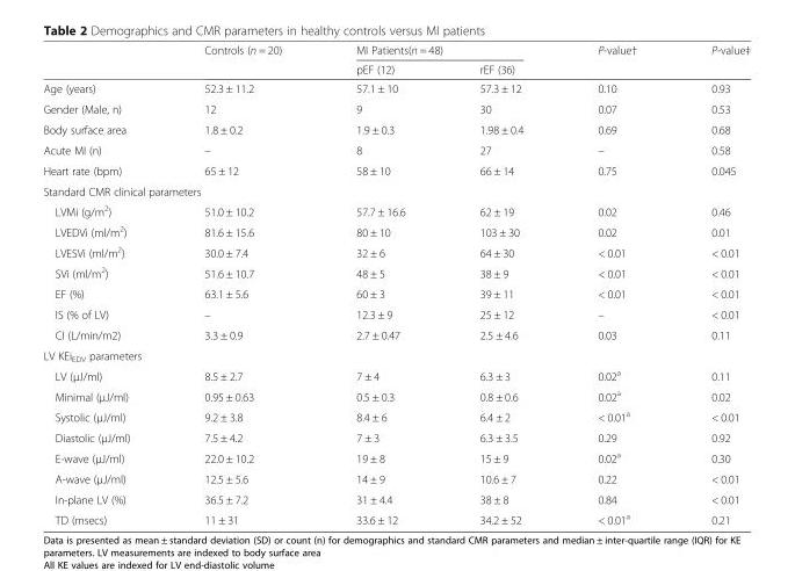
<table><thead><tr><td rowspan="2"></td><td rowspan="2">Controls (n = 20)</td><td colspan="2">MI Patients(n = 48)</td><td rowspan="2">P-value†</td><td rowspan="2">P-value‡</td></tr><tr><td>pEF (12)</td><td>rEF (36)</td></tr></thead><tbody><tr><td>Age (years)</td><td>52.3 ± 11.2</td><td>57.1 ± 10</td><td>57.3 ± 12</td><td>0.10</td><td>0.93</td></tr><tr><td>Gender (Male, n)</td><td>12</td><td>9</td><td>30</td><td>0.07</td><td>0.53</td></tr><tr><td>Body surface area</td><td>1.8 ± 0.2</td><td>1.9 ± 0.3</td><td>1.98 ± 0.4</td><td>0.69</td><td>0.68</td></tr><tr><td>Acute MI (n)</td><td>–</td><td>8</td><td>27</td><td>–</td><td>0.58</td></tr><tr><td>Heart rate (bpm)</td><td>65 ± 12</td><td>58 ± 10</td><td>66 ± 14</td><td>0.75</td><td>0.045</td></tr><tr><td colspan="6">Standard CMR clinical parameters</td></tr><tr><td>LVMi (g/m<sup>2</sup>)</td><td>51.0 ± 10.2</td><td>57.7 ± 16.6</td><td>62 ± 19</td><td>0.02</td><td>0.46</td></tr><tr><td>LVEDVi (ml/m<sup>2</sup>)</td><td>81.6 ± 15.6</td><td>80 ± 10</td><td>103 ± 30</td><td>0.02</td><td>0.01</td></tr><tr><td>LVESVi (ml/m<sup>2</sup>)</td><td>30.0 ± 7.4</td><td>32 ± 6</td><td>64 ± 30</td><td>&lt; 0.01</td><td>&lt; 0.01</td></tr><tr><td>SVi (ml/m<sup>2</sup>)</td><td>51.6 ± 10.7</td><td>48 ± 5</td><td>38 ± 9</td><td>&lt; 0.01</td><td>&lt; 0.01</td></tr><tr><td>EF (%)</td><td>63.1 ± 5.6</td><td>60 ± 3</td><td>39 ± 11</td><td>&lt; 0.01</td><td>&lt; 0.01</td></tr><tr><td>IS (% of LV)</td><td>–</td><td>12.3 ± 9</td><td>25 ± 12</td><td>–</td><td>&lt; 0.01</td></tr><tr><td>CI (L/min/m2)</td><td>3.3 ± 0.9</td><td>2.7 ± 0.47</td><td>2.5 ± 4.6</td><td>0.03</td><td>0.11</td></tr><tr><td colspan="6">LV KEi<sub>EDV</sub> parameters</td></tr><tr><td>LV (μJ/ml)</td><td>8.5 ± 2.7</td><td>7 ± 4</td><td>6.3 ± 3</td><td>0.02<sup>a</sup></td><td>0.11</td></tr><tr><td>Minimal (μJ/ml)</td><td>0.95 ± 0.63</td><td>0.5 ± 0.3</td><td>0.8 ± 0.6</td><td>0.02<sup>a</sup></td><td>0.02</td></tr><tr><td>Systolic (μJ/ml)</td><td>9.2 ± 3.8</td><td>8.4 ± 6</td><td>6.4 ± 2</td><td>&lt; 0.01<sup>a</sup></td><td>&lt; 0.01</td></tr><tr><td>Diastolic (μJ/ml)</td><td>7.5 ± 4.2</td><td>7 ± 3</td><td>6.3 ± 3.5</td><td>0.29</td><td>0.92</td></tr><tr><td>E-wave (μJ/ml)</td><td>22.0 ± 10.2</td><td>19 ± 8</td><td>15 ± 9</td><td>0.02<sup>a</sup></td><td>0.30</td></tr><tr><td>A-wave (μJ/ml)</td><td>12.5 ± 5.6</td><td>14 ± 9</td><td>10.6 ± 7</td><td>0.22</td><td>&lt; 0.01</td></tr><tr><td>In-plane LV (%)</td><td>36.5 ± 7.2</td><td>31 ± 4.4</td><td>38 ± 8</td><td>0.84</td><td>&lt; 0.01</td></tr><tr><td>TD (msecs)</td><td>11 ± 31</td><td>33.6 ± 12</td><td>34.2 ± 52</td><td>&lt; 0.01<sup>a</sup></td><td>0.21</td></tr></tbody></table>